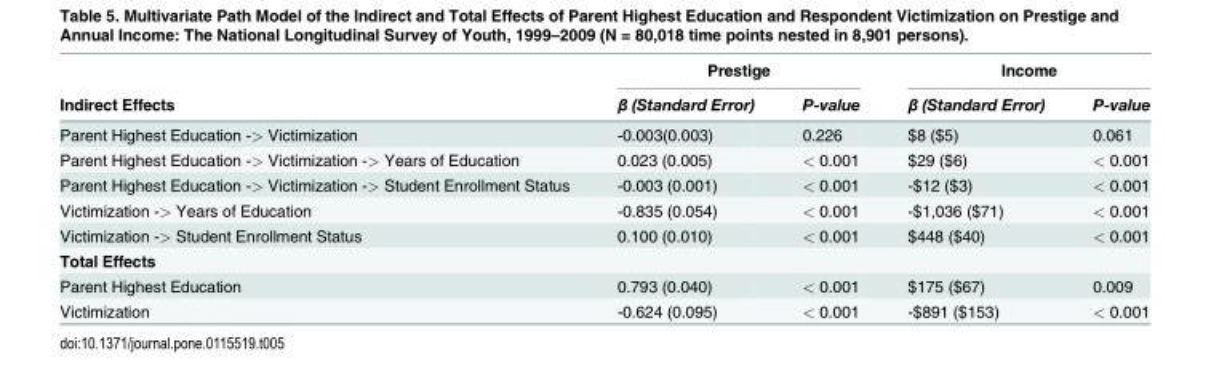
<table><thead><tr><td rowspan="2">Indirect Effects</td><td colspan="2">Prestige</td><td colspan="2">Income</td></tr><tr><td>β (Standard Error)</td><td>P-value</td><td>β (Standard Error)</td><td>P-value</td></tr></thead><tbody><tr><td>Parent Highest Education -&gt; Victimization</td><td>-0.003(0.003)</td><td>0.226</td><td>$8 ($5)</td><td>0.061</td></tr><tr><td>Parent Highest Education -&gt; Victimization -&gt; Years of Education</td><td>0.023 (0.005)</td><td>&lt; 0.001</td><td>$29 ($6)</td><td>&lt; 0.001</td></tr><tr><td>Parent Highest Education -&gt; Victimization -&gt; Student Enrollment Status</td><td>-0.003 (0.001)</td><td>&lt; 0.001</td><td>-$12 ($3)</td><td>&lt; 0.001</td></tr><tr><td>Victimization -&gt; Years of Education</td><td>-0.835 (0.054)</td><td>&lt; 0.001</td><td>-$1,036 ($71)</td><td>&lt; 0.001</td></tr><tr><td>Victimization -&gt; Student Enrollment Status</td><td>0.100 (0.010)</td><td>&lt; 0.001</td><td>$448 ($40)</td><td>&lt; 0.001</td></tr><tr><td colspan="5">Total Effects</td></tr><tr><td>Parent Highest Education</td><td>0.793 (0.040)</td><td>&lt; 0.001</td><td>$175 ($67)</td><td>0.009</td></tr><tr><td>Victimization</td><td>-0.624 (0.095)</td><td>&lt; 0.001</td><td>-$891 ($153)</td><td>&lt; 0.001</td></tr></tbody></table>